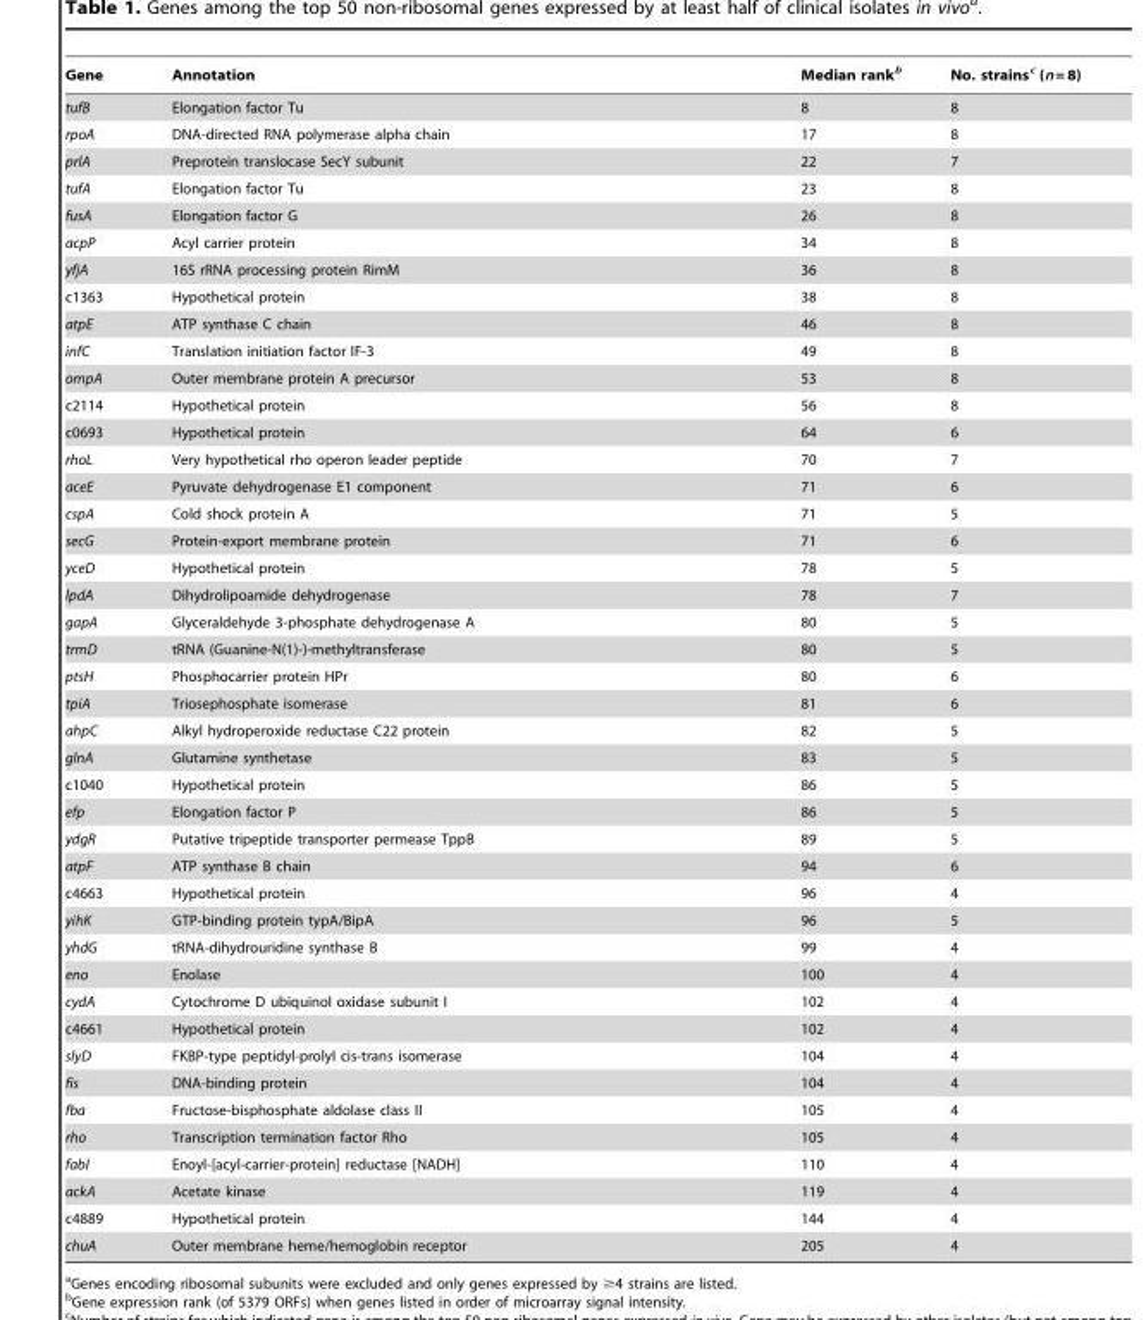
<table><thead><tr><td>Gene</td><td>Annotation</td><td>Median rank<sup>b</sup></td><td>No. strains<sup>c</sup> (n = 8)</td></tr></thead><tbody><tr><td>tufB</td><td>Elongation factor Tu</td><td>8</td><td>8</td></tr><tr><td>rpoA</td><td>DNA-directed RNA polymerase alpha chain</td><td>17</td><td>8</td></tr><tr><td>prlA</td><td>Preprotein translocase SecY subunit</td><td>22</td><td>7</td></tr><tr><td>tufA</td><td>Elongation factor Tu</td><td>23</td><td>8</td></tr><tr><td>fusA</td><td>Elongation factor G</td><td>26</td><td>8</td></tr><tr><td>acpP</td><td>Acyl carrier protein</td><td>34</td><td>8</td></tr><tr><td>yfjA</td><td>16S rRNA processing protein RimM</td><td>36</td><td>8</td></tr><tr><td>c1363</td><td>Hypothetical protein</td><td>38</td><td>8</td></tr><tr><td>atpE</td><td>ATP synthase C chain</td><td>46</td><td>8</td></tr><tr><td>infC</td><td>Translation initiation factor IF-3</td><td>49</td><td>8</td></tr><tr><td>ompA</td><td>Outer membrane protein A precursor</td><td>53</td><td>8</td></tr><tr><td>c2114</td><td>Hypothetical protein</td><td>56</td><td>8</td></tr><tr><td>c0693</td><td>Hypothetical protein</td><td>64</td><td>6</td></tr><tr><td>rhoL</td><td>Very hypothetical rho operon leader peptide</td><td>70</td><td>7</td></tr><tr><td>aceE</td><td>Pyruvate dehydrogenase E1 component</td><td>71</td><td>6</td></tr><tr><td>cspA</td><td>Cold shock protein A</td><td>71</td><td>5</td></tr><tr><td>secG</td><td>Protein-export membrane protein</td><td>71</td><td>6</td></tr><tr><td>yceD</td><td>Hypothetical protein</td><td>78</td><td>5</td></tr><tr><td>lpdA</td><td>Dihydrolipoamide dehydrogenase</td><td>78</td><td>7</td></tr><tr><td>gapA</td><td>Glyceraldehyde 3-phosphate dehydrogenase A</td><td>80</td><td>5</td></tr><tr><td>trmD</td><td>tRNA (Guanine-N(1)-)-methyltransferase</td><td>80</td><td>5</td></tr><tr><td>ptsH</td><td>Phosphocarrier protein HPr</td><td>80</td><td>6</td></tr><tr><td>tpiA</td><td>Triosephosphate isomerase</td><td>81</td><td>6</td></tr><tr><td>ahpC</td><td>Alkyl hydroperoxide reductase C22 protein</td><td>82</td><td>5</td></tr><tr><td>glnA</td><td>Glutamine synthetase</td><td>83</td><td>5</td></tr><tr><td>c1040</td><td>Hypothetical protein</td><td>86</td><td>5</td></tr><tr><td>efp</td><td>Elongation factor P</td><td>86</td><td>5</td></tr><tr><td>ydgR</td><td>Putative tripeptide transporter permease TppB</td><td>89</td><td>5</td></tr><tr><td>atpF</td><td>ATP synthase B chain</td><td>94</td><td>6</td></tr><tr><td>c4663</td><td>Hypothetical protein</td><td>96</td><td>4</td></tr><tr><td>yihK</td><td>GTP-binding protein typA/BipA</td><td>96</td><td>5</td></tr><tr><td>yhdG</td><td>tRNA-dihydrouridine synthase B</td><td>99</td><td>4</td></tr><tr><td>eno</td><td>Enolase</td><td>100</td><td>4</td></tr><tr><td>cydA</td><td>Cytochrome D ubiquinol oxidase subunit I</td><td>102</td><td>4</td></tr><tr><td>c4661</td><td>Hypothetical protein</td><td>102</td><td>4</td></tr><tr><td>slyD</td><td>FKBP-type peptidyl-prolyl cis-trans isomerase</td><td>104</td><td>4</td></tr><tr><td>fis</td><td>DNA-binding protein</td><td>104</td><td>4</td></tr><tr><td>fba</td><td>Fructose-bisphosphate aldolase class II</td><td>105</td><td>4</td></tr><tr><td>rho</td><td>Transcription termination factor Rho</td><td>105</td><td>4</td></tr><tr><td>fabI</td><td>Enoyl-[acyl-carrier-protein] reductase [NADH]</td><td>110</td><td>4</td></tr><tr><td>ackA</td><td>Acetate kinase</td><td>119</td><td>4</td></tr><tr><td>c4889</td><td>Hypothetical protein</td><td>144</td><td>4</td></tr><tr><td>chuA</td><td>Outer membrane heme/hemoglobin receptor</td><td>205</td><td>4</td></tr></tbody></table>